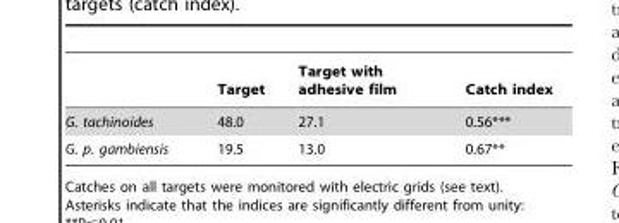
<table><thead><tr><td></td><td>Target</td><td>Target with adhesive film</td><td>Catch index</td></tr></thead><tbody><tr><td>G. tachinoides</td><td>48.0</td><td>27.1</td><td>0.56***</td></tr><tr><td>G. p. gambiensis</td><td>19.5</td><td>13.0</td><td>0.67**</td></tr></tbody></table>